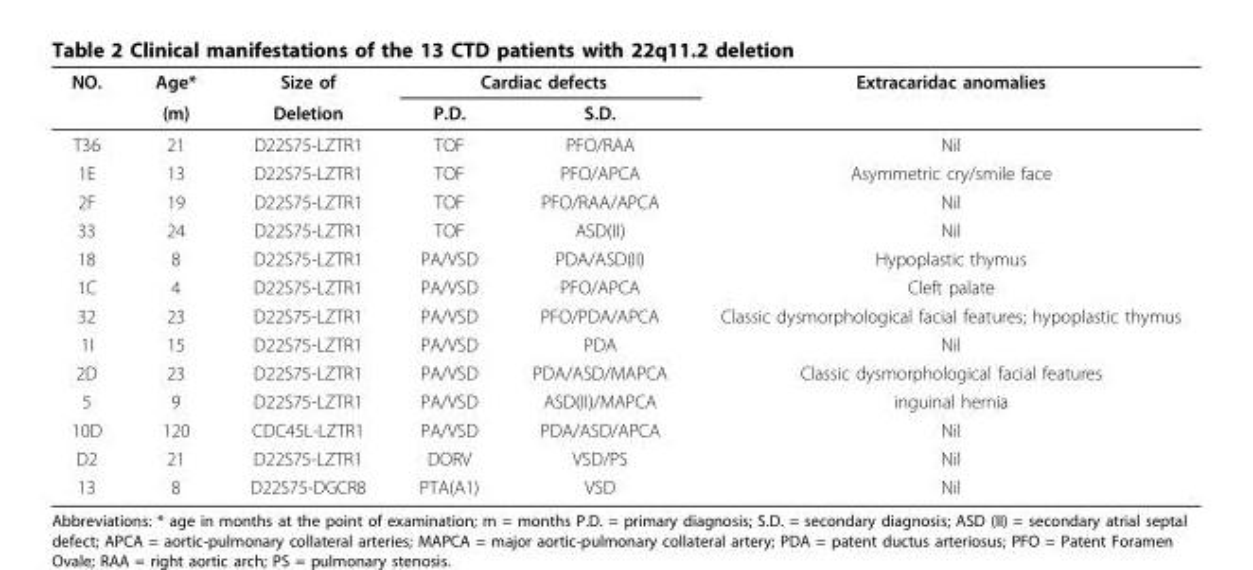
<table><thead><tr><td rowspan="2">NO.</td><td rowspan="2">Age* (m)</td><td rowspan="2">Size of Deletion</td><td colspan="2">Cardiac defects</td><td rowspan="2">Extracaridac anomalies</td></tr><tr><td>P.D.</td><td>S.D.</td></tr></thead><tbody><tr><td>T36</td><td>21</td><td>D22S75-LZTR1</td><td>TOF</td><td>PFO/RAA</td><td>Nil</td></tr><tr><td>1E</td><td>13</td><td>D22S75-LZTR1</td><td>TOF</td><td>PFO/APCA</td><td>Asymmetric cry/smile face</td></tr><tr><td>2F</td><td>19</td><td>D22S75-LZTR1</td><td>TOF</td><td>PFO/RAA/APCA</td><td>Nil</td></tr><tr><td>33</td><td>24</td><td>D22S75-LZTR1</td><td>TOF</td><td>ASD(II)</td><td>Nil</td></tr><tr><td>18</td><td>8</td><td>D22S75-LZTR1</td><td>PA/VSD</td><td>PDA/ASD(II)</td><td>Hypoplastic thymus</td></tr><tr><td>1C</td><td>4</td><td>D22S75-LZTR1</td><td>PA/VSD</td><td>PFO/APCA</td><td>Cleft palate</td></tr><tr><td>32</td><td>23</td><td>D22S75-LZTR1</td><td>PA/VSD</td><td>PFO/PDA/APCA</td><td>Classic dysmorphological facial features; hypoplastic thymus</td></tr><tr><td>1I</td><td>15</td><td>D22S75-LZTR1</td><td>PA/VSD</td><td>PDA</td><td>Nil</td></tr><tr><td>2D</td><td>23</td><td>D22S75-LZTR1</td><td>PA/VSD</td><td>PDA/ASD/MAPCA</td><td>Classic dysmorphological facial features</td></tr><tr><td>5</td><td>9</td><td>D22S75-LZTR1</td><td>PA/VSD</td><td>ASD(II)/MAPCA</td><td>inguinal hernia</td></tr><tr><td>10D</td><td>120</td><td>CDC45L-LZTR1</td><td>PA/VSD</td><td>PDA/ASD/APCA</td><td>Nil</td></tr><tr><td>D2</td><td>21</td><td>D22S75-LZTR1</td><td>DORV</td><td>VSD/PS</td><td>Nil</td></tr><tr><td>13</td><td>8</td><td>D22S75-DGCR8</td><td>PTA(A1)</td><td>VSD</td><td>Nil</td></tr></tbody></table>